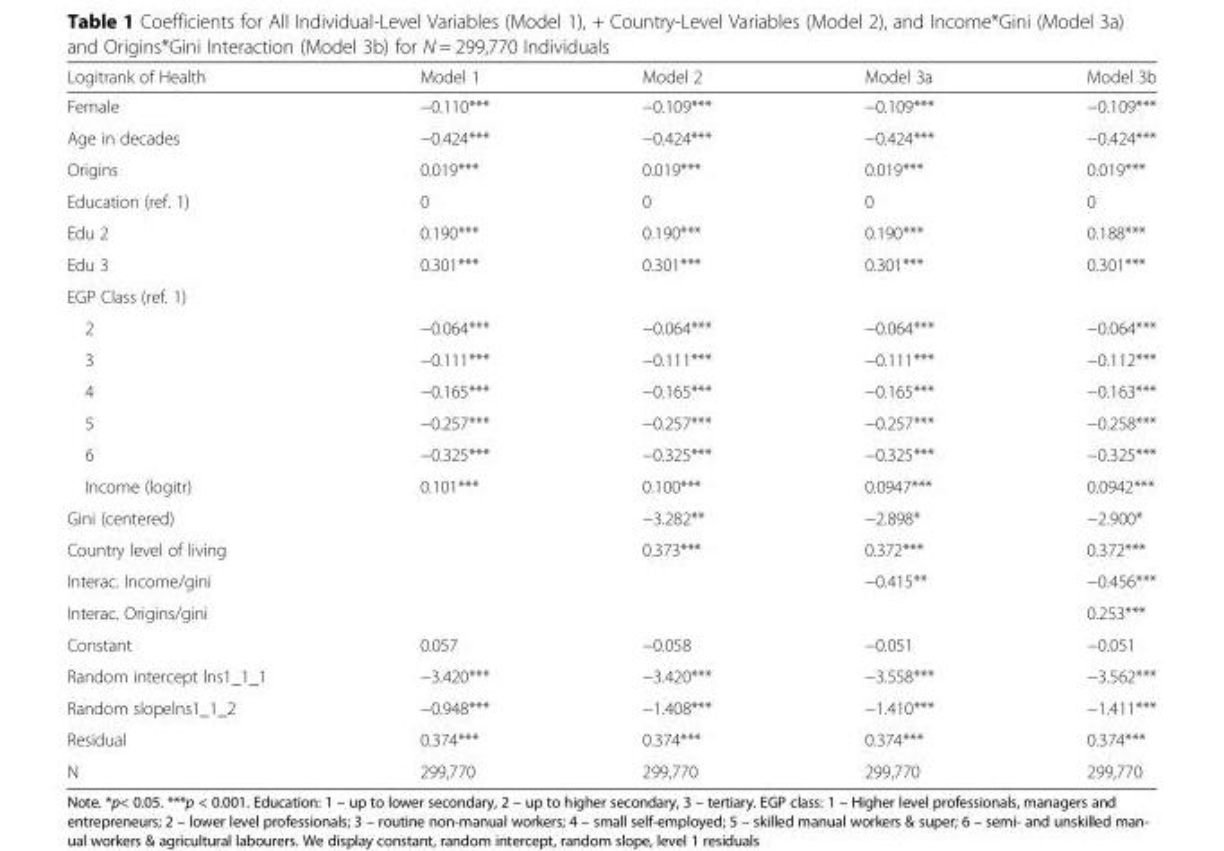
<table><thead><tr><td>Logitrank of Health</td><td>Model 1</td><td>Model 2</td><td>Model 3a</td><td>Model 3b</td></tr></thead><tbody><tr><td>Female</td><td>−0.110***</td><td>−0.109***</td><td>−0.109***</td><td>−0.109***</td></tr><tr><td>Age in decades</td><td>−0.424***</td><td>−0.424***</td><td>−0.424***</td><td>−0.424***</td></tr><tr><td>Origins</td><td>0.019***</td><td>0.019***</td><td>0.019***</td><td>0.019***</td></tr><tr><td>Education (ref. 1)</td><td>0</td><td>0</td><td>0</td><td>0</td></tr><tr><td>Edu 2</td><td>0.190***</td><td>0.190***</td><td>0.190***</td><td>0.188***</td></tr><tr><td>Edu 3</td><td>0.301***</td><td>0.301***</td><td>0.301***</td><td>0.301***</td></tr><tr><td colspan="5">EGP Class (ref. 1)</td></tr><tr><td>2</td><td>−0.064***</td><td>−0.064***</td><td>−0.064***</td><td>−0.064***</td></tr><tr><td>3</td><td>−0.111***</td><td>−0.111***</td><td>−0.111***</td><td>−0.112***</td></tr><tr><td>4</td><td>−0.165***</td><td>−0.165***</td><td>−0.165***</td><td>−0.163***</td></tr><tr><td>5</td><td>−0.257***</td><td>−0.257***</td><td>−0.257***</td><td>−0.258***</td></tr><tr><td>6</td><td>−0.325***</td><td>−0.325***</td><td>−0.325***</td><td>−0.325***</td></tr><tr><td>Income (logitr)</td><td>0.101***</td><td>0.100***</td><td>0.0947***</td><td>0.0942***</td></tr><tr><td>Gini (centered)</td><td></td><td>−3.282**</td><td>−2.898*</td><td>−2.900*</td></tr><tr><td>Country level of living</td><td></td><td>0.373***</td><td>0.372***</td><td>0.372***</td></tr><tr><td>Interac. Income/gini</td><td></td><td></td><td>−0.415**</td><td>−0.456***</td></tr><tr><td>Interac. Origins/gini</td><td></td><td></td><td></td><td>0.253***</td></tr><tr><td>Constant</td><td>0.057</td><td>−0.058</td><td>−0.051</td><td>−0.051</td></tr><tr><td>Random intercept lns1_1_1</td><td>−3.420***</td><td>−3.420***</td><td>−3.558***</td><td>−3.562***</td></tr><tr><td>Random slopelns1_1_2</td><td>−0.948***</td><td>−1.408***</td><td>−1.410***</td><td>−1.411***</td></tr><tr><td>Residual</td><td>0.374***</td><td>0.374***</td><td>0.374***</td><td>0.374***</td></tr><tr><td>N</td><td>299,770</td><td>299,770</td><td>299,770</td><td>299,770</td></tr></tbody></table>